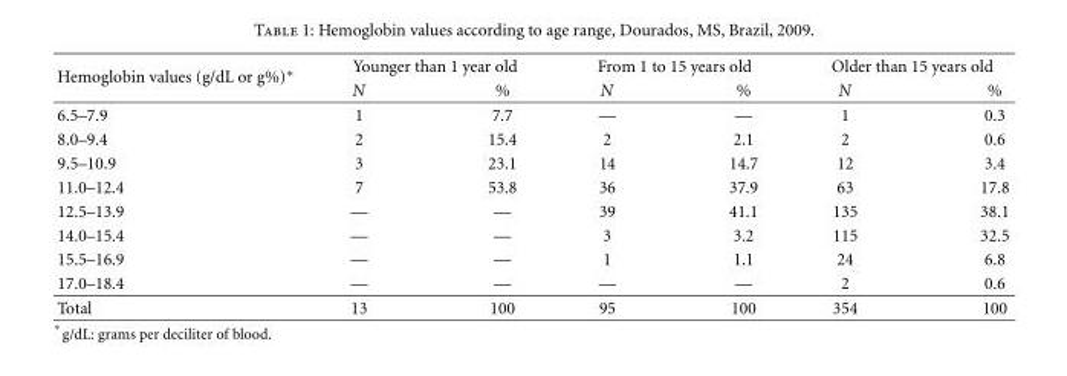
<table><thead><tr><td rowspan="2">Hemoglobin values (g/dL or g%)∗</td><td colspan="2">Younger than 1 year old</td><td colspan="2">From 1 to 15 years old</td><td colspan="2">Older than 15 years old</td></tr><tr><td>N</td><td>%</td><td>N</td><td>%</td><td>N</td><td>%</td></tr></thead><tbody><tr><td>6.5–7.9</td><td>1</td><td>7.7</td><td>—</td><td>—</td><td>1</td><td>0.3</td></tr><tr><td>8.0–9.4</td><td>2</td><td>15.4</td><td>2</td><td>2.1</td><td>2</td><td>0.6</td></tr><tr><td>9.5–10.9</td><td>3</td><td>23.1</td><td>14</td><td>14.7</td><td>12</td><td>3.4</td></tr><tr><td>11.0–12.4</td><td>7</td><td>53.8</td><td>36</td><td>37.9</td><td>63</td><td>17.8</td></tr><tr><td>12.5–13.9</td><td>—</td><td>—</td><td>39</td><td>41.1</td><td>135</td><td>38.1</td></tr><tr><td>14.0–15.4</td><td>—</td><td>—</td><td>3</td><td>3.2</td><td>115</td><td>32.5</td></tr><tr><td>15.5–16.9</td><td>—</td><td>—</td><td>1</td><td>1.1</td><td>24</td><td>6.8</td></tr><tr><td>17.0–18.4</td><td>—</td><td>—</td><td>—</td><td>—</td><td>2</td><td>0.6</td></tr><tr><td>Total</td><td>13</td><td>100</td><td>95</td><td>100</td><td>354</td><td>100</td></tr></tbody></table>